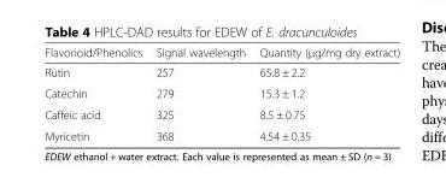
<table><thead><tr><td>Flavonoid/Phenolics</td><td>Signal wavelength</td><td>Quantity (μg/mg dry extract)</td></tr></thead><tbody><tr><td>Rutin</td><td>257</td><td>65.8 ± 2.2</td></tr><tr><td>Catechin</td><td>279</td><td>15.3 ± 1.2</td></tr><tr><td>Caffeic acid</td><td>325</td><td>8.5 ± 0.75</td></tr><tr><td>Myricetin</td><td>368</td><td>4.54 ± 0.35</td></tr></tbody></table>